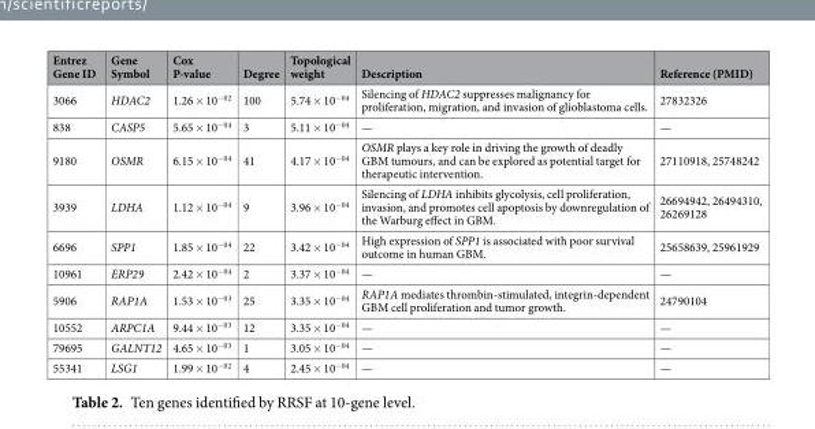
<table><thead><tr><td>Entrez Gene ID</td><td>Gene Symbol</td><td>Cox P-value</td><td>Degree</td><td>Topological weight</td><td>Description</td><td>Reference (PMID)</td></tr></thead><tbody><tr><td>3066</td><td>HDAC2</td><td>1.26 × 10<sup>−02</sup></td><td>100</td><td>5.74 × 10<sup>−04</sup></td><td>Silencing of HDAC2 suppresses malignancy for proliferation, migration, and invasion of glioblastoma cells.</td><td>27832326</td></tr><tr><td>838</td><td>CASP5</td><td>5.65 × 10<sup>−04</sup></td><td>3</td><td>5.11 × 10<sup>−04</sup></td><td>—</td><td>—</td></tr><tr><td>9180</td><td>OSMR</td><td>6.15 × 10<sup>−04</sup></td><td>41</td><td>4.17 × 10<sup>−04</sup></td><td>OSMR plays a key role in driving the growth of deadly GBM tumours, and can be explored as potential target for therapeutic intervention.</td><td>27110918, 25748242</td></tr><tr><td>3939</td><td>LDHA</td><td>1.12 × 10<sup>−04</sup></td><td>9</td><td>3.96 × 10<sup>−04</sup></td><td>Silencing of LDHA inhibits glycolysis, cell proliferation, invasion, and promotes cell apoptosis by downregulation of the Warburg effect in GBM.</td><td>26694942, 26494310, 26269128</td></tr><tr><td>6696</td><td>SPP1</td><td>1.85 × 10<sup>−04</sup></td><td>22</td><td>3.42 × 10<sup>−04</sup></td><td>High expression of SPP1 is associated with poor survival outcome in human GBM.</td><td>25658639, 25961929</td></tr><tr><td>10961</td><td>ERP29</td><td>2.42 × 10<sup>−04</sup></td><td>2</td><td>3.37 × 10<sup>−04</sup></td><td>—</td><td>—</td></tr><tr><td>5906</td><td>RAP1A</td><td>1.53 × 10<sup>−03</sup></td><td>25</td><td>3.35 × 10<sup>−04</sup></td><td>RAP1A mediates thrombin-stimulated, integrin-dependent GBM cell proliferation and tumor growth.</td><td>24790104</td></tr><tr><td>10552</td><td>ARPC1A</td><td>9.44 × 10<sup>−03</sup></td><td>12</td><td>3.35 × 10<sup>−04</sup></td><td>—</td><td>—</td></tr><tr><td>79695</td><td>GALNT12</td><td>4.65 × 10<sup>−03</sup></td><td>1</td><td>3.05 × 10<sup>−04</sup></td><td>—</td><td>—</td></tr><tr><td>55341</td><td>LSG1</td><td>1.99 × 10<sup>−02</sup></td><td>4</td><td>2.45 × 10<sup>−04</sup></td><td>—</td><td>—</td></tr></tbody></table>